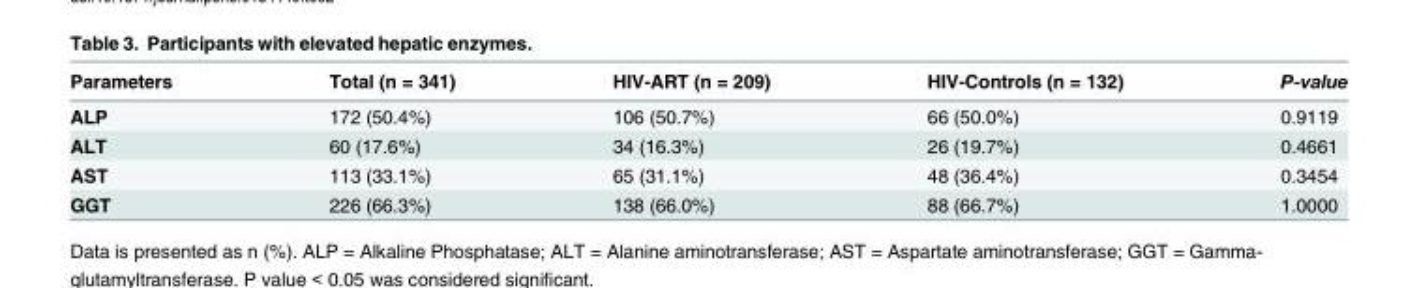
<table><thead><tr><td>Parameters</td><td>Total (n = 341)</td><td>HIV-ART (n = 209)</td><td>HIV-Controls (n = 132)</td><td>P-value</td></tr></thead><tbody><tr><td>ALP</td><td>172 (50.4%)</td><td>106 (50.7%)</td><td>66 (50.0%)</td><td>0.9119</td></tr><tr><td>ALT</td><td>60 (17.6%)</td><td>34 (16.3%)</td><td>26 (19.7%)</td><td>0.4661</td></tr><tr><td>AST</td><td>113 (33.1%)</td><td>65 (31.1%)</td><td>48 (36.4%)</td><td>0.3454</td></tr><tr><td>GGT</td><td>226 (66.3%)</td><td>138 (66.0%)</td><td>88 (66.7%)</td><td>1.0000</td></tr></tbody></table>